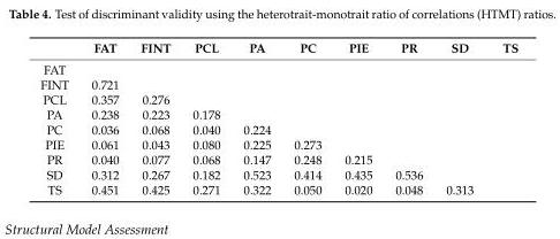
<table><thead><tr><td></td><td>FAT</td><td>FINT</td><td>PCL</td><td>PA</td><td>PC</td><td>PIE</td><td>PR</td><td>SD</td><td>TS</td></tr></thead><tbody><tr><td colspan="10">FAT</td></tr><tr><td>FINT</td><td>0.721</td><td></td><td></td><td></td><td></td><td></td><td></td><td></td><td></td></tr><tr><td>PCL</td><td>0.357</td><td>0.276</td><td></td><td></td><td></td><td></td><td></td><td></td><td></td></tr><tr><td>PA</td><td>0.238</td><td>0.223</td><td>0.178</td><td></td><td></td><td></td><td></td><td></td><td></td></tr><tr><td>PC</td><td>0.036</td><td>0.068</td><td>0.040</td><td>0.224</td><td></td><td></td><td></td><td></td><td></td></tr><tr><td>PIE</td><td>0.061</td><td>0.043</td><td>0.080</td><td>0.225</td><td>0.273</td><td></td><td></td><td></td><td></td></tr><tr><td>PR</td><td>0.040</td><td>0.077</td><td>0.068</td><td>0.147</td><td>0.248</td><td>0.215</td><td></td><td></td><td></td></tr><tr><td>SD</td><td>0.312</td><td>0.267</td><td>0.182</td><td>0.523</td><td>0.414</td><td>0.435</td><td>0.536</td><td></td><td></td></tr><tr><td>TS</td><td>0.451</td><td>0.425</td><td>0.271</td><td>0.322</td><td>0.050</td><td>0.020</td><td>0.048</td><td>0.313</td><td></td></tr></tbody></table>